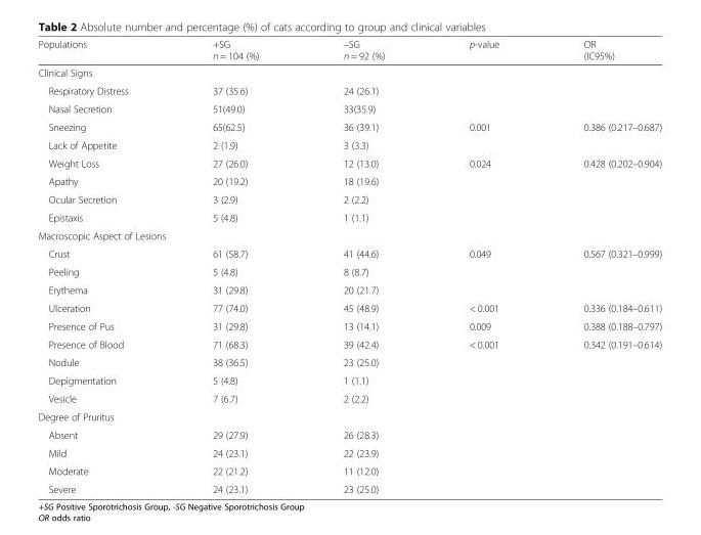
<table><thead><tr><td>Populations</td><td>+SG n = 104 (%)</td><td>–SG n = 92 (%)</td><td>p-value</td><td>OR (IC95%)</td></tr></thead><tbody><tr><td colspan="5">Clinical Signs</td></tr><tr><td>Respiratory Distress</td><td>37 (35.6)</td><td>24 (26.1)</td><td></td><td></td></tr><tr><td>Nasal Secretion</td><td>51(49.0)</td><td>33(35.9)</td><td></td><td></td></tr><tr><td>Sneezing</td><td>65(62.5)</td><td>36 (39.1)</td><td>0.001</td><td>0.386 (0.217–0.687)</td></tr><tr><td>Lack of Appetite</td><td>2 (1.9)</td><td>3 (3.3)</td><td></td><td></td></tr><tr><td>Weight Loss</td><td>27 (26.0)</td><td>12 (13.0)</td><td>0.024</td><td>0.428 (0.202–0.904)</td></tr><tr><td>Apathy</td><td>20 (19.2)</td><td>18 (19.6)</td><td></td><td></td></tr><tr><td>Ocular Secretion</td><td>3 (2.9)</td><td>2 (2.2)</td><td></td><td></td></tr><tr><td>Epistaxis</td><td>5 (4.8)</td><td>1 (1.1)</td><td></td><td></td></tr><tr><td colspan="5">Macroscopic Aspect of Lesions</td></tr><tr><td>Crust</td><td>61 (58.7)</td><td>41 (44.6)</td><td>0.049</td><td>0.567 (0.321–0.999)</td></tr><tr><td>Peeling</td><td>5 (4.8)</td><td>8 (8.7)</td><td></td><td></td></tr><tr><td>Erythema</td><td>31 (29.8)</td><td>20 (21.7)</td><td></td><td></td></tr><tr><td>Ulceration</td><td>77 (74.0)</td><td>45 (48.9)</td><td>&lt; 0.001</td><td>0.336 (0.184–0.611)</td></tr><tr><td>Presence of Pus</td><td>31 (29.8)</td><td>13 (14.1)</td><td>0.009</td><td>0.388 (0.188–0.797)</td></tr><tr><td>Presence of Blood</td><td>71 (68.3)</td><td>39 (42.4)</td><td>&lt; 0.001</td><td>0.342 (0.191–0.614)</td></tr><tr><td>Nodule</td><td>38 (36.5)</td><td>23 (25.0)</td><td></td><td></td></tr><tr><td>Depigmentation</td><td>5 (4.8)</td><td>1 (1.1)</td><td></td><td></td></tr><tr><td>Vesicle</td><td>7 (6.7)</td><td>2 (2.2)</td><td></td><td></td></tr><tr><td colspan="5">Degree of Pruritus</td></tr><tr><td>Absent</td><td>29 (27.9)</td><td>26 (28.3)</td><td></td><td></td></tr><tr><td>Mild</td><td>24 (23.1)</td><td>22 (23.9)</td><td></td><td></td></tr><tr><td>Moderate</td><td>22 (21.2)</td><td>11 (12.0)</td><td></td><td></td></tr><tr><td>Severe</td><td>24 (23.1)</td><td>23 (25.0)</td><td></td><td></td></tr></tbody></table>